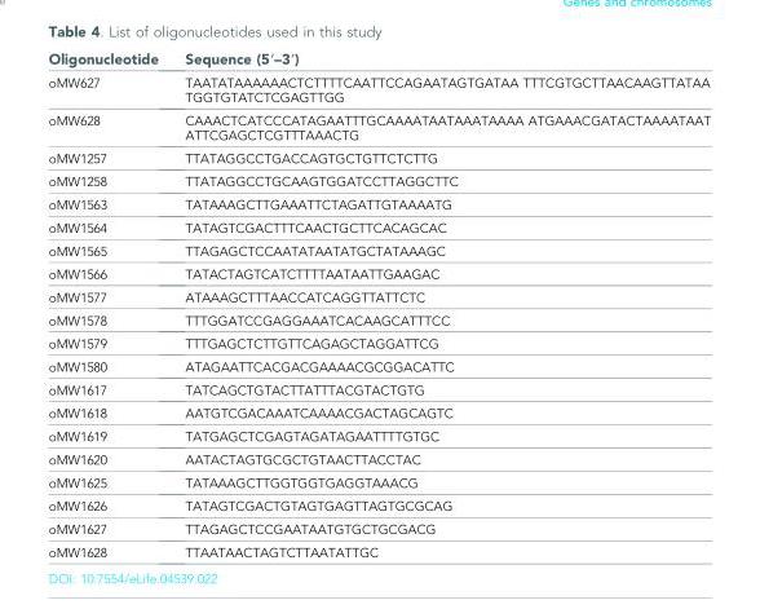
<table><thead><tr><td>Oligonucleotide</td><td>Sequence (5′–3′)</td></tr></thead><tbody><tr><td>oMW627</td><td>TAATATAAAAAACTCTTTTCAATTCCAGAATAGTGATAA TTTCGTGCTTAACAAGTTATAA TGGTGTATCTCGAGTTGG</td></tr><tr><td>oMW628</td><td>CAAACTCATCCCATAGAATTTGCAAAATAATAAATAAAA ATGAAACGATACTAAAATAAT ATTCGAGCTCGTTTAAACTG</td></tr><tr><td>oMW1257</td><td>TTATAGGCCTGACCAGTGCTGTTCTCTTG</td></tr><tr><td>oMW1258</td><td>TTATAGGCCTGCAAGTGGATCCTTAGGCTTC</td></tr><tr><td>oMW1563</td><td>TATAAAGCTTGAAATTCTAGATTGTAAAATG</td></tr><tr><td>oMW1564</td><td>TATAGTCGACTTTCAACTGCTTCACAGCAC</td></tr><tr><td>oMW1565</td><td>TTAGAGCTCCAATATAATATGCTATAAAGC</td></tr><tr><td>oMW1566</td><td>TATACTAGTCATCTTTTAATAATTGAAGAC</td></tr><tr><td>oMW1577</td><td>ATAAAGCTTTAACCATCAGGTTATTCTC</td></tr><tr><td>oMW1578</td><td>TTTGGATCCGAGGAAATCACAAGCATTTCC</td></tr><tr><td>oMW1579</td><td>TTTGAGCTCTTGTTCAGAGCTAGGATTCG</td></tr><tr><td>oMW1580</td><td>ATAGAATTCACGACGAAAACGCGGACATTC</td></tr><tr><td>oMW1617</td><td>TATCAGCTGTACTTATTTACGTACTGTG</td></tr><tr><td>oMW1618</td><td>AATGTCGACAAATCAAAACGACTAGCAGTC</td></tr><tr><td>oMW1619</td><td>TATGAGCTCGAGTAGATAGAATTTTGTGC</td></tr><tr><td>oMW1620</td><td>AATACTAGTGCGCTGTAACTTACCTAC</td></tr><tr><td>oMW1625</td><td>TATAAAGCTTGGTGGTGAGGTAAACG</td></tr><tr><td>oMW1626</td><td>TATAGTCGACTGTAGTGAGTTAGTGCGCAG</td></tr><tr><td>oMW1627</td><td>TTAGAGCTCCGAATAATGTGCTGCGACG</td></tr><tr><td>oMW1628</td><td>TTAATAACTAGTCTTAATATTGC</td></tr></tbody></table>